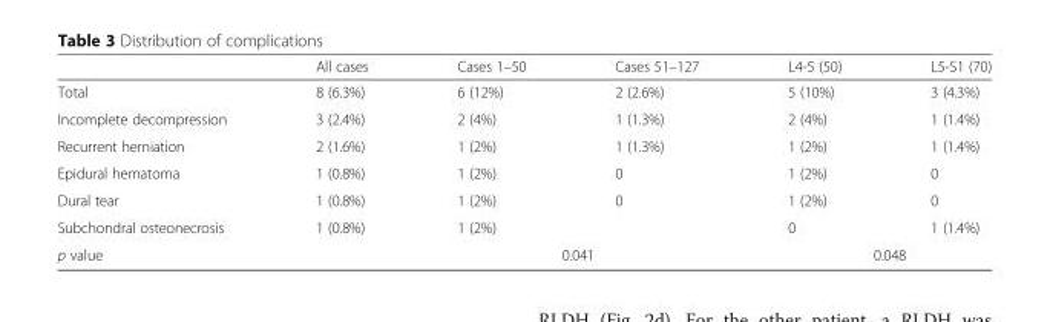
<table><thead><tr><td></td><td>All cases</td><td>Cases 1–50</td><td>Cases 51–127</td><td>L4-5 (50)</td><td>L5-S1 (70)</td></tr></thead><tbody><tr><td>Total</td><td>8 (6.3%)</td><td>6 (12%)</td><td>2 (2.6%)</td><td>5 (10%)</td><td>3 (4.3%)</td></tr><tr><td>Incomplete decompression</td><td>3 (2.4%)</td><td>2 (4%)</td><td>1 (1.3%)</td><td>2 (4%)</td><td>1 (1.4%)</td></tr><tr><td>Recurrent herniation</td><td>2 (1.6%)</td><td>1 (2%)</td><td>1 (1.3%)</td><td>1 (2%)</td><td>1 (1.4%)</td></tr><tr><td>Epidural hematoma</td><td>1 (0.8%)</td><td>1 (2%)</td><td>0</td><td>1 (2%)</td><td>0</td></tr><tr><td>Dural tear</td><td>1 (0.8%)</td><td>1 (2%)</td><td>0</td><td>1 (2%)</td><td>0</td></tr><tr><td>Subchondral osteonecrosis</td><td>1 (0.8%)</td><td>1 (2%)</td><td></td><td>0</td><td>1 (1.4%)</td></tr><tr><td>p value</td><td></td><td colspan="2">0.041</td><td colspan="2">0.048</td></tr></tbody></table>